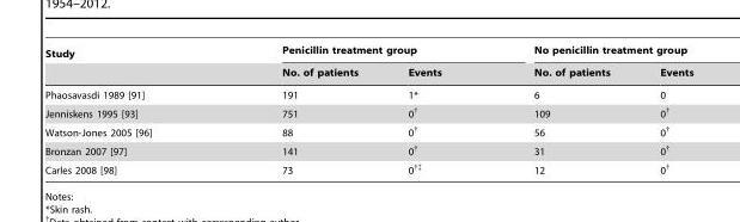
<table><thead><tr><td rowspan="2">Study</td><td colspan="2">Penicillin treatment group</td><td colspan="2">No penicillin treatment group</td></tr><tr><td>No. of patients</td><td>Events</td><td>No. of patients</td><td>Events</td></tr></thead><tbody><tr><td>Phaosavasdi 1989 [91]</td><td>191</td><td>1*</td><td>6</td><td>0</td></tr><tr><td>Jenniskens 1995 [93]</td><td>751</td><td>0†</td><td>109</td><td>0†</td></tr><tr><td>Watson-Jones 2005 [96]</td><td>88</td><td>0†</td><td>56</td><td>0†</td></tr><tr><td>Bronzan 2007 [97]</td><td>141</td><td>0†</td><td>31</td><td>0†</td></tr><tr><td>Carles 2008 [98]</td><td>73</td><td>0†‡</td><td>12</td><td>0†</td></tr></tbody></table>